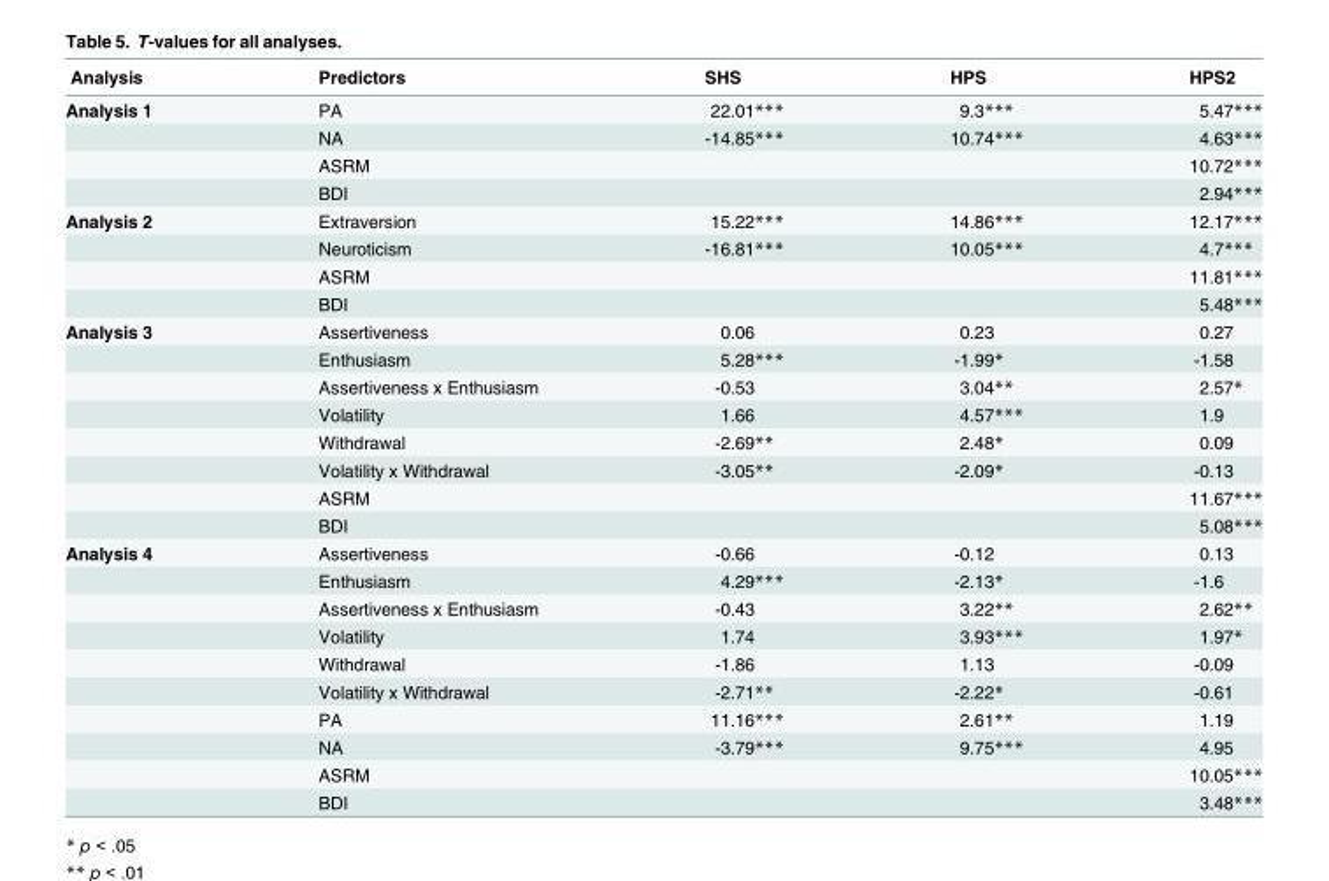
<table><thead><tr><td>Analysis</td><td>Predictors</td><td>SHS</td><td>HPS</td><td>HPS2</td></tr></thead><tbody><tr><td rowspan="4">Analysis 1</td><td>PA</td><td>22.01***</td><td>9.3***</td><td>5.47***</td></tr><tr><td>NA</td><td>-14.85***</td><td>10.74***</td><td>4.63***</td></tr><tr><td>ASRM</td><td></td><td></td><td>10.72***</td></tr><tr><td>BDI</td><td></td><td></td><td>2.94***</td></tr><tr><td rowspan="4">Analysis 2</td><td>Extraversion</td><td>15.22***</td><td>14.86***</td><td>12.17***</td></tr><tr><td>Neuroticism</td><td>-16.81***</td><td>10.05***</td><td>4.7***</td></tr><tr><td>ASRM</td><td></td><td></td><td>11.81***</td></tr><tr><td>BDI</td><td></td><td></td><td>5.48***</td></tr><tr><td rowspan="8">Analysis 3</td><td>Assertiveness</td><td>0.06</td><td>0.23</td><td>0.27</td></tr><tr><td>Enthusiasm</td><td>5.28***</td><td>-1.99*</td><td>-1.58</td></tr><tr><td>Assertiveness x Enthusiasm</td><td>-0.53</td><td>3.04**</td><td>2.57*</td></tr><tr><td>Volatility</td><td>1.66</td><td>4.57***</td><td>1.9</td></tr><tr><td>Withdrawal</td><td>-2.69**</td><td>2.48*</td><td>0.09</td></tr><tr><td>Volatility x Withdrawal</td><td>-3.05**</td><td>-2.09*</td><td>-0.13</td></tr><tr><td>ASRM</td><td></td><td></td><td>11.67***</td></tr><tr><td>BDI</td><td></td><td></td><td>5.08***</td></tr><tr><td rowspan="10">Analysis 4</td><td>Assertiveness</td><td>-0.66</td><td>-0.12</td><td>0.13</td></tr><tr><td>Enthusiasm</td><td>4.29***</td><td>-2.13*</td><td>-1.6</td></tr><tr><td>Assertiveness x Enthusiasm</td><td>-0.43</td><td>3.22**</td><td>2.62**</td></tr><tr><td>Volatility</td><td>1.74</td><td>3.93***</td><td>1.97*</td></tr><tr><td>Withdrawal</td><td>-1.86</td><td>1.13</td><td>-0.09</td></tr><tr><td>Volatility x Withdrawal</td><td>-2.71**</td><td>-2.22*</td><td>-0.61</td></tr><tr><td>PA</td><td>11.16***</td><td>2.61**</td><td>1.19</td></tr><tr><td>NA</td><td>-3.79***</td><td>9.75***</td><td>4.95</td></tr><tr><td>ASRM</td><td></td><td></td><td>10.05***</td></tr><tr><td>BDI</td><td></td><td></td><td>3.48***</td></tr></tbody></table>